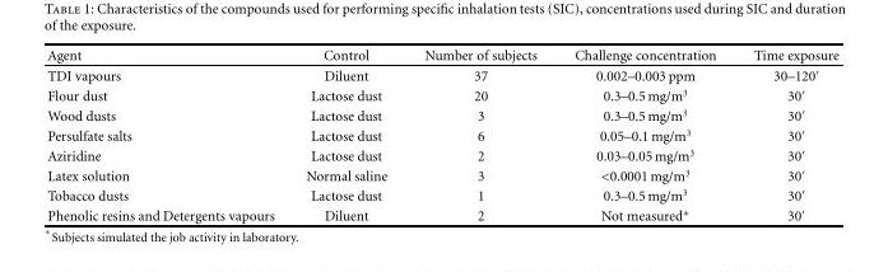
<table><thead><tr><td>Agent</td><td>Control</td><td>Number of subjects</td><td>Challenge concentration</td><td>Time exposure</td></tr></thead><tbody><tr><td>TDI vapours</td><td>Diluent</td><td>37</td><td>0.002–0.003 ppm</td><td>30–120′</td></tr><tr><td>Flour dust</td><td>Lactose dust</td><td>20</td><td>0.3–0.5 mg/m<sup>3</sup></td><td>30′</td></tr><tr><td>Wood dusts</td><td>Lactose dust</td><td>3</td><td>0.3–0.5 mg/m<sup>3</sup></td><td>30′</td></tr><tr><td>Persulfate salts</td><td>Lactose dust</td><td>6</td><td>0.05–0.1 mg/m<sup>3</sup></td><td>30′</td></tr><tr><td>Aziridine</td><td>Lactose dust</td><td>2</td><td>0.03–0.05 mg/m<sup>3</sup></td><td>30′</td></tr><tr><td>Latex solution</td><td>Normal saline</td><td>3</td><td>&lt;0.0001mg/m<sup>3</sup></td><td>30′</td></tr><tr><td>Tobacco dusts</td><td>Lactose dust</td><td>1</td><td>0.3–0.5 mg/m<sup>3</sup></td><td>30′</td></tr><tr><td>Phenolic resins and Detergents vapours</td><td>Diluent</td><td>2</td><td>Not measured∗</td><td>30′</td></tr></tbody></table>